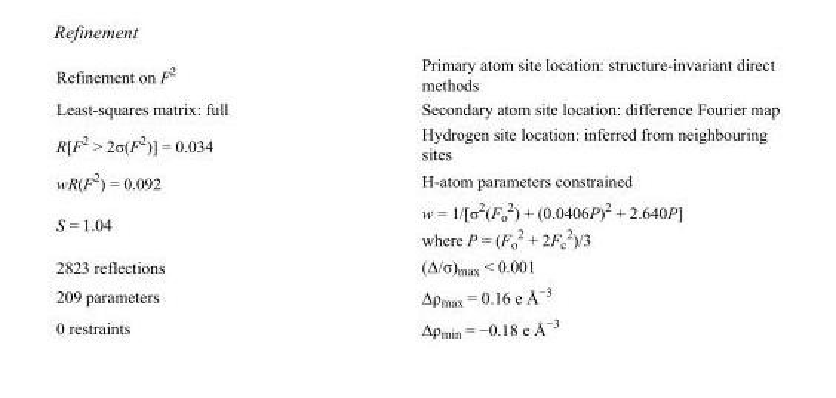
<table><tbody><tr><td>Refinement on F<sup>2</sup></td><td>Primary atom site location: structure-invariant direct methods</td></tr><tr><td>Least-squares matrix: full</td><td>Secondary atom site location: difference Fourier map</td></tr><tr><td>R[F<sup>2</sup> &gt; 2σ(F<sup>2</sup>)] = 0.034</td><td>Hydrogen site location: inferred from neighbouring sites</td></tr><tr><td>wR(F<sup>2</sup>) = 0.092</td><td>H-atom parameters constrained</td></tr><tr><td>S = 1.04</td><td>w = 1/[σ<sup>2</sup>(F<sub>o</sub> <sup>2</sup>) + (0.0406P)<sup>2</sup> + 2.640P] where P = (F<sub>o</sub> <sup>2</sup> + 2F<sub>c</sub> <sup>2</sup>)/3</td></tr><tr><td>2823 reflections</td><td>(Δ/σ)<sub>max</sub> &lt; 0.001</td></tr><tr><td>209 parameters</td><td>Δρ<sub>max</sub> = 0.16 e Å<sup>−3</sup></td></tr><tr><td>0 restraints</td><td>Δρ<sub>min</sub> = −0.18 e Å<sup>−3</sup></td></tr></tbody></table>